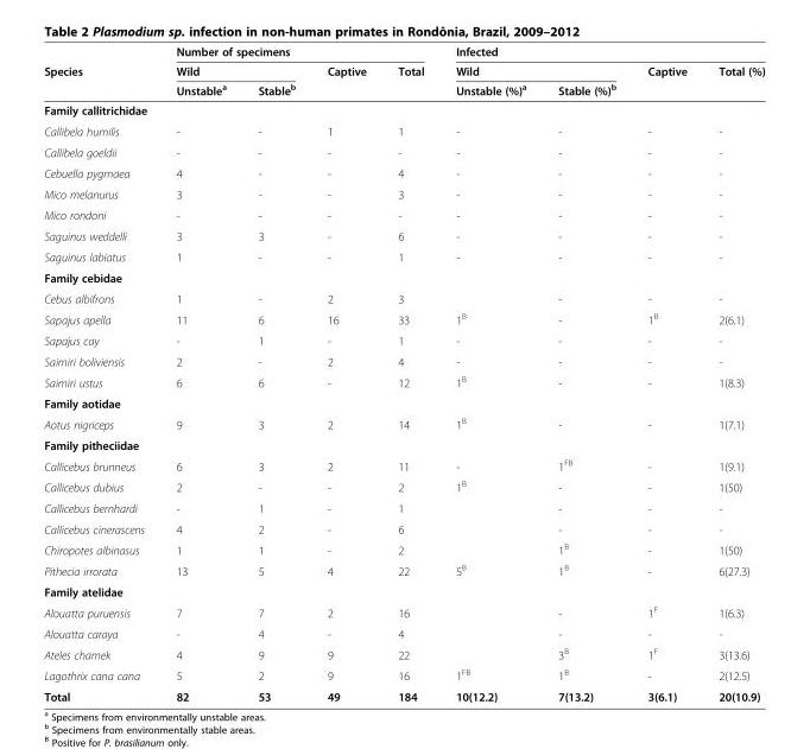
<table><thead><tr><td rowspan="3">Species</td><td colspan="4">Number of specimens</td><td colspan="4">Infected</td></tr><tr><td colspan="2">Wild</td><td rowspan="2">Captive</td><td rowspan="2">Total</td><td colspan="2">Wild</td><td rowspan="2">Captive</td><td rowspan="2">Total (%)</td></tr><tr><td>Unstable<sup>a</sup></td><td>Stable<sup>b</sup></td><td>Unstable (%)<sup>a</sup></td><td>Stable (%)<sup>b</sup></td></tr></thead><tbody><tr><td colspan="9">Family callitrichidae</td></tr><tr><td>Callibela humilis</td><td>-</td><td>-</td><td>1</td><td>1</td><td>-</td><td>-</td><td>-</td><td>-</td></tr><tr><td>Callibela goeldii</td><td>-</td><td>-</td><td>-</td><td>-</td><td>-</td><td>-</td><td>-</td><td>-</td></tr><tr><td>Cebuella pygmaea</td><td>4</td><td>-</td><td>-</td><td>4</td><td>-</td><td>-</td><td>-</td><td>-</td></tr><tr><td>Mico melanurus</td><td>3</td><td>-</td><td>-</td><td>3</td><td>-</td><td>-</td><td>-</td><td>-</td></tr><tr><td>Mico rondoni</td><td>-</td><td>-</td><td>-</td><td>-</td><td>-</td><td>-</td><td>-</td><td>-</td></tr><tr><td>Saguinus weddelli</td><td>3</td><td>3</td><td>-</td><td>6</td><td>-</td><td>-</td><td>-</td><td>-</td></tr><tr><td>Saguinus labiatus</td><td>1</td><td>-</td><td>-</td><td>1</td><td>-</td><td>-</td><td>-</td><td>-</td></tr><tr><td colspan="9">Family cebidae</td></tr><tr><td>Cebus albifrons</td><td>1</td><td>-</td><td>2</td><td>3</td><td></td><td>-</td><td>-</td><td>-</td></tr><tr><td>Sapajus apella</td><td>11</td><td>6</td><td>16</td><td>33</td><td>1<sup>B</sup></td><td>-</td><td>1<sup>B</sup></td><td>2(6.1)</td></tr><tr><td>Sapajus cay</td><td>-</td><td>1</td><td>-</td><td>1</td><td>-</td><td>-</td><td>-</td><td>-</td></tr><tr><td>Saimiri boliviensis</td><td>2</td><td>-</td><td>2</td><td>4</td><td>-</td><td>-</td><td>-</td><td>-</td></tr><tr><td>Saimiri ustus</td><td>6</td><td>6</td><td>-</td><td>12</td><td>1<sup>B</sup></td><td>-</td><td>-</td><td>1(8.3)</td></tr><tr><td colspan="9">Family aotidae</td></tr><tr><td>Aotus nigriceps</td><td>9</td><td>3</td><td>2</td><td>14</td><td>1<sup>B</sup></td><td>-</td><td>-</td><td>1(7.1)</td></tr><tr><td colspan="9">Family pitheciidae</td></tr><tr><td>Callicebus brunneus</td><td>6</td><td>3</td><td>2</td><td>11</td><td>-</td><td>1<sup>FB</sup></td><td>-</td><td>1(9.1)</td></tr><tr><td>Callicebus dubius</td><td>2</td><td>-</td><td>-</td><td>2</td><td>1<sup>B</sup></td><td>-</td><td>-</td><td>1(50)</td></tr><tr><td>Callicebus bernhardi</td><td>-</td><td>1</td><td>-</td><td>1</td><td></td><td>-</td><td>-</td><td>-</td></tr><tr><td>Callicebus cinerascens</td><td>4</td><td>2</td><td>-</td><td>6</td><td></td><td>-</td><td>-</td><td>-</td></tr><tr><td>Chiropotes albinasus</td><td>1</td><td>1</td><td>-</td><td>2</td><td></td><td>1<sup>B</sup></td><td>-</td><td>1(50)</td></tr><tr><td>Pithecia irrorata</td><td>13</td><td>5</td><td>4</td><td>22</td><td>5<sup>B</sup></td><td>1<sup>B</sup></td><td>-</td><td>6(27.3)</td></tr><tr><td colspan="9">Family atelidae</td></tr><tr><td>Alouatta puruensis</td><td>7</td><td>7</td><td>2</td><td>16</td><td></td><td>-</td><td>1<sup>F</sup></td><td>1(6.3)</td></tr><tr><td>Alouatta caraya</td><td>-</td><td>4</td><td>-</td><td>4</td><td></td><td>-</td><td>-</td><td>-</td></tr><tr><td>Ateles chamek</td><td>4</td><td>9</td><td>9</td><td>22</td><td></td><td>3<sup>B</sup></td><td>1<sup>F</sup></td><td>3(13.6)</td></tr><tr><td>Lagothrix cana cana</td><td>5</td><td>2</td><td>9</td><td>16</td><td>1<sup>FB</sup></td><td>1<sup>B</sup></td><td>-</td><td>2(12.5)</td></tr><tr><td>Total</td><td>82</td><td>53</td><td>49</td><td>184</td><td>10(12.2)</td><td>7(13.2)</td><td>3(6.1)</td><td>20(10.9)</td></tr></tbody></table>